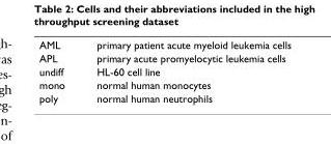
<table><tbody><tr><td>AML</td><td>primary patient acute myeloid leukemia cells</td></tr><tr><td>APL</td><td>primary acute promyelocytic leukemia cells</td></tr><tr><td>undiff</td><td>HL-60 cell line</td></tr><tr><td>mono</td><td>normal human monocytes</td></tr><tr><td>poly</td><td>normal human neutrophils</td></tr></tbody></table>